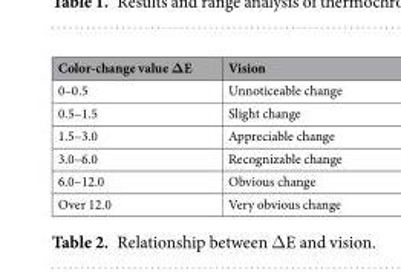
<table><thead><tr><td>Color-change value ΔE</td><td>Vision</td></tr></thead><tbody><tr><td>0–0.5</td><td>Unnoticeable change</td></tr><tr><td>0.5–1.5</td><td>Slight change</td></tr><tr><td>1.5–3.0</td><td>Appreciable change</td></tr><tr><td>3.0–6.0</td><td>Recognizable change</td></tr><tr><td>6.0–12.0</td><td>Obvious change</td></tr><tr><td>Over 12.0</td><td>Very obvious change</td></tr></tbody></table>